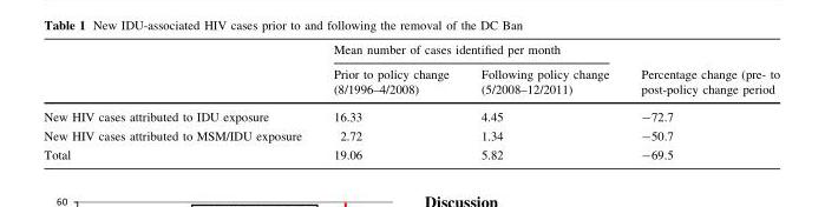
<table><thead><tr><td rowspan="2"></td><td colspan="2">Mean number of cases identified per month</td><td rowspan="2">Percentage change (pre- to post-policy change period</td></tr><tr><td>Prior to policy change (8/1996–4/2008)</td><td>Following policy change (5/2008–12/2011)</td></tr></thead><tbody><tr><td>New HIV cases attributed to IDU exposure</td><td>16.33</td><td>4.45</td><td>-72.7</td></tr><tr><td>New HIV cases attributed to MSM/IDU exposure</td><td>2.72</td><td>1.34</td><td>-50.7</td></tr><tr><td>Total</td><td>19.06</td><td>5.82</td><td>-69.5</td></tr></tbody></table>